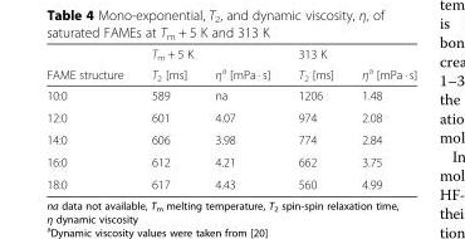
<table><thead><tr><td rowspan="2">FAME structure</td><td colspan="2">T<sub>m</sub> + 5 K</td><td colspan="2">313 K</td></tr><tr><td>T<sub>2</sub> [ms]</td><td>η<sup>a</sup> [mPa · s]</td><td>T<sub>2</sub> [ms]</td><td>η<sup>a</sup> [mPa · s]</td></tr></thead><tbody><tr><td>10:0</td><td>589</td><td>na</td><td>1206</td><td>1.48</td></tr><tr><td>12:0</td><td>601</td><td>4.07</td><td>974</td><td>2.08</td></tr><tr><td>14:0</td><td>606</td><td>3.98</td><td>774</td><td>2.84</td></tr><tr><td>16:0</td><td>612</td><td>4.21</td><td>662</td><td>3.75</td></tr><tr><td>18:0</td><td>617</td><td>4.43</td><td>560</td><td>4.99</td></tr></tbody></table>